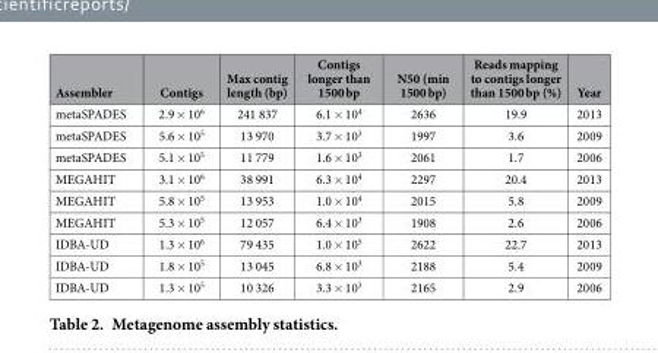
<table><thead><tr><td>Assembler</td><td>Contigs</td><td>Max contig length (bp)</td><td>Contigs longer than 1500 bp</td><td>N50 (min 1500 bp)</td><td>Reads mapping to contigs longer than 1500 bp (%)</td><td>Year</td></tr></thead><tbody><tr><td>metaSPADES</td><td>2.9 × 10<sup>6</sup></td><td>241 837</td><td>6.1 × 10<sup>4</sup></td><td>2636</td><td>19.9</td><td>2013</td></tr><tr><td>metaSPADES</td><td>5.6 × 10<sup>5</sup></td><td>13 970</td><td>3.7 × 10<sup>3</sup></td><td>1997</td><td>3.6</td><td>2009</td></tr><tr><td>metaSPADES</td><td>5.1 × 10<sup>5</sup></td><td>11 779</td><td>1.6 × 10<sup>3</sup></td><td>2061</td><td>1.7</td><td>2006</td></tr><tr><td>MEGAHIT</td><td>3.1 × 10<sup>6</sup></td><td>38 991</td><td>6.3 × 10<sup>4</sup></td><td>2297</td><td>20.4</td><td>2013</td></tr><tr><td>MEGAHIT</td><td>5.8 × 10<sup>5</sup></td><td>13 953</td><td>1.0 × 10<sup>4</sup></td><td>2015</td><td>5.8</td><td>2009</td></tr><tr><td>MEGAHIT</td><td>5.3 × 10<sup>5</sup></td><td>12 057</td><td>6.4 × 10<sup>3</sup></td><td>1908</td><td>2.6</td><td>2006</td></tr><tr><td>IDBA-UD</td><td>1.3 × 10<sup>6</sup></td><td>79 435</td><td>1.0 × 10<sup>5</sup></td><td>2622</td><td>22.7</td><td>2013</td></tr><tr><td>IDBA-UD</td><td>1.8 × 10<sup>5</sup></td><td>13 045</td><td>6.8 × 10<sup>3</sup></td><td>2188</td><td>5.4</td><td>2009</td></tr><tr><td>IDBA-UD</td><td>1.3 × 10<sup>5</sup></td><td>10 326</td><td>3.3 × 10<sup>3</sup></td><td>2165</td><td>2.9</td><td>2006</td></tr></tbody></table>